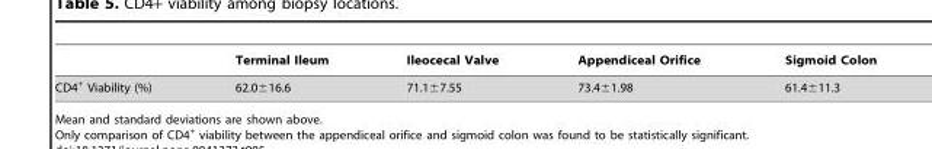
<table><thead><tr><td></td><td>Terminal Ileum</td><td>Ileocecal Valve</td><td>Appendiceal Orifice</td><td>Sigmoid Colon</td></tr></thead><tbody><tr><td>CD4<sup>+</sup> Viability (%)</td><td>62.0±16.6</td><td>71.1±7.55</td><td>73.4±1.98</td><td>61.4±11.3</td></tr></tbody></table>